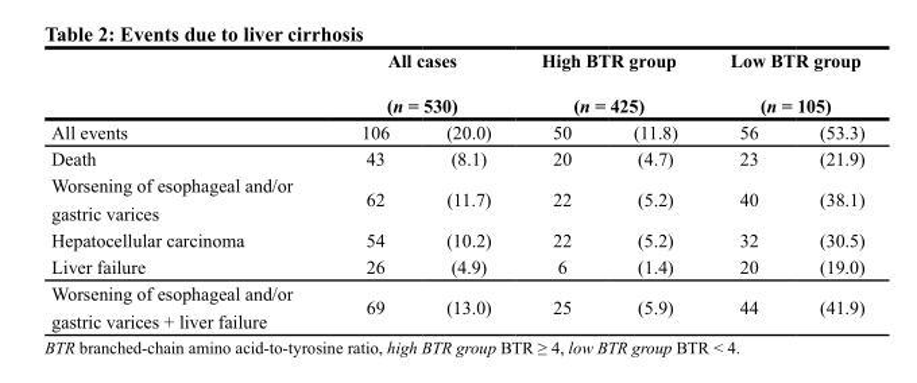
<table><thead><tr><td rowspan="2">All events</td><td colspan="2">All cases (n = 530)</td><td colspan="2">High BTR group (n = 425)</td><td colspan="2">Low BTR group (n = 105)</td></tr><tr><td>106</td><td>(20.0)</td><td>50</td><td>(11.8)</td><td>56</td><td>(53.3)</td></tr></thead><tbody><tr><td>Death</td><td>43</td><td>(8.1)</td><td>20</td><td>(4.7)</td><td>23</td><td>(21.9)</td></tr><tr><td>Worsening of esophageal and/or gastric varices</td><td>62</td><td>(11.7)</td><td>22</td><td>(5.2)</td><td>40</td><td>(38.1)</td></tr><tr><td>Hepatocellular carcinoma</td><td>54</td><td>(10.2)</td><td>22</td><td>(5.2)</td><td>32</td><td>(30.5)</td></tr><tr><td>Liver failure</td><td>26</td><td>(4.9)</td><td>6</td><td>(1.4)</td><td>20</td><td>(19.0)</td></tr><tr><td>Worsening of esophageal and/or gastric varices + liver failure</td><td>69</td><td>(13.0)</td><td>25</td><td>(5.9)</td><td>44</td><td>(41.9)</td></tr></tbody></table>